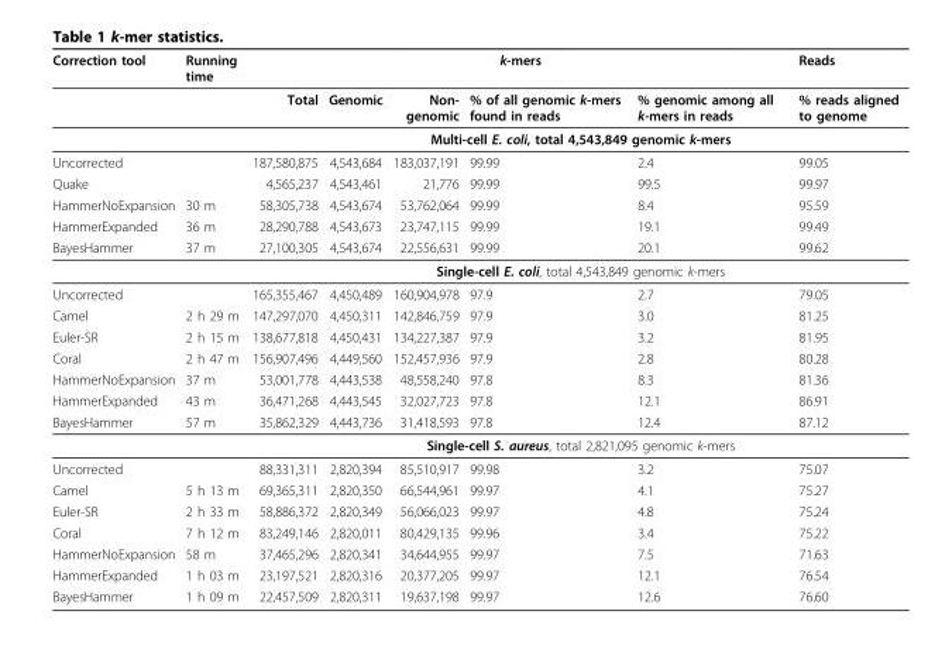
<table><thead><tr><td rowspan="2">Correction tool</td><td rowspan="2">Running time</td><td colspan="5">k-mers</td><td rowspan="2">Reads % reads aligned to genome</td></tr><tr><td>Total</td><td>Genomic</td><td>Non- genomic</td><td>% of all genomic k-mers found in reads</td><td>% genomic among all k-mers in reads</td></tr></thead><tbody><tr><td></td><td></td><td colspan="6">Multi-cell E. coli, total 4,543,849 genomic k-mers</td></tr><tr><td>Uncorrected</td><td></td><td>187,580,875</td><td>4,543,684</td><td>183,037,191</td><td>99.99</td><td>2.4</td><td>99.05</td></tr><tr><td>Quake</td><td></td><td>4,565,237</td><td>4,543,461</td><td>21,776</td><td>99.99</td><td>99.5</td><td>99.97</td></tr><tr><td>HammerNoExpansion</td><td>30 m</td><td>58,305,738</td><td>4,543,674</td><td>53,762,064</td><td>99.99</td><td>8.4</td><td>95.59</td></tr><tr><td>HammerExpanded</td><td>36 m</td><td>28,290,788</td><td>4,543,673</td><td>23,747,115</td><td>99.99</td><td>19.1</td><td>99.49</td></tr><tr><td rowspan="2">BayesHammer</td><td>37 m</td><td>27,100,305</td><td>4,543,674</td><td>22,556,631</td><td>99.99</td><td>20.1</td><td>99.62</td></tr><tr><td></td><td colspan="6">Single-cell E. coli, total 4,543,849 genomic k-mers</td></tr><tr><td>Uncorrected</td><td></td><td>165,355,467</td><td>4,450,489</td><td>160,904,978</td><td>97.9</td><td>2.7</td><td>79.05</td></tr><tr><td>Camel</td><td>2 h 29 m</td><td>147,297,070</td><td>4,450,311</td><td>142,846,759</td><td>97.9</td><td>3.0</td><td>81.25</td></tr><tr><td>Euler-SR</td><td>2 h 15 m</td><td>138,677,818</td><td>4,450,431</td><td>134,227,387</td><td>97.9</td><td>3.2</td><td>81.95</td></tr><tr><td>Coral</td><td>2 h 47 m</td><td>156,907,496</td><td>4,449,560</td><td>152,457,936</td><td>97.9</td><td>2.8</td><td>80.28</td></tr><tr><td>HammerNoExpansion</td><td>37 m</td><td>53,001,778</td><td>4,443,538</td><td>48,558,240</td><td>97.8</td><td>8.3</td><td>81.36</td></tr><tr><td>HammerExpanded</td><td>43 m</td><td>36,471,268</td><td>4,443,545</td><td>32,027,723</td><td>97.8</td><td>12.1</td><td>86.91</td></tr><tr><td rowspan="2">BayesHammer</td><td>57 m</td><td>35,862,329</td><td>4,443,736</td><td>31,418,593</td><td>97.8</td><td>12.4</td><td>87.12</td></tr><tr><td></td><td colspan="6">Single-cell S. aureus, total 2,821,095 genomic k-mers</td></tr><tr><td>Uncorrected</td><td></td><td>88,331,311</td><td>2,820,394</td><td>85,510,917</td><td>99.98</td><td>3.2</td><td>75.07</td></tr><tr><td>Camel</td><td>5 h 13 m</td><td>69,365,311</td><td>2,820,350</td><td>66,544,961</td><td>99.97</td><td>4.1</td><td>75.27</td></tr><tr><td>Euler-SR</td><td>2 h 33 m</td><td>58,886,372</td><td>2,820,349</td><td>56,066,023</td><td>99.97</td><td>4.8</td><td>75.24</td></tr><tr><td>Coral</td><td>7 h 12 m</td><td>83,249,146</td><td>2,820,011</td><td>80,429,135</td><td>99.96</td><td>3.4</td><td>75.22</td></tr><tr><td>HammerNoExpansion</td><td>58 m</td><td>37,465,296</td><td>2,820,341</td><td>34,644,955</td><td>99.97</td><td>7.5</td><td>71.63</td></tr><tr><td>HammerExpanded</td><td>1 h 03 m</td><td>23,197,521</td><td>2,820,316</td><td>20,377,205</td><td>99.97</td><td>12.1</td><td>76.54</td></tr><tr><td>BayesHammer</td><td>1 h 09 m</td><td>22,457,509</td><td>2,820,311</td><td>19,637,198</td><td>99.97</td><td>12.6</td><td>76.60</td></tr></tbody></table>